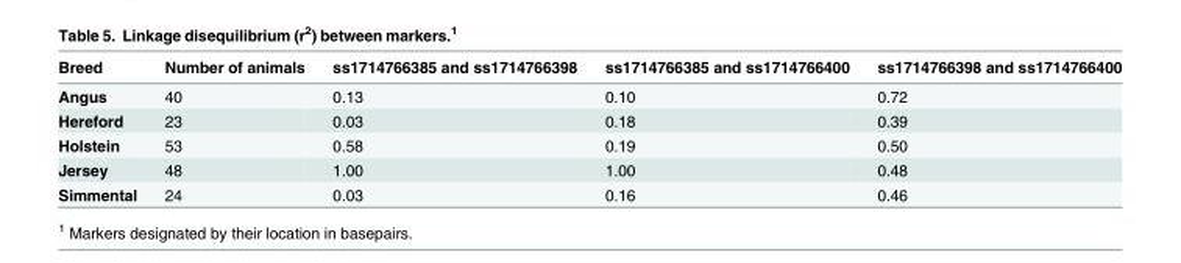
<table><thead><tr><td>Breed</td><td>Number of animals</td><td>ss1714766385 and ss1714766398</td><td>ss1714766385 and ss1714766400</td><td>ss1714766398 and ss1714766400</td></tr></thead><tbody><tr><td>Angus</td><td>40</td><td>0.13</td><td>0.10</td><td>0.72</td></tr><tr><td>Hereford</td><td>23</td><td>0.03</td><td>0.18</td><td>0.39</td></tr><tr><td>Holstein</td><td>53</td><td>0.58</td><td>0.19</td><td>0.50</td></tr><tr><td>Jersey</td><td>48</td><td>1.00</td><td>1.00</td><td>0.48</td></tr><tr><td>Simmental</td><td>24</td><td>0.03</td><td>0.16</td><td>0.46</td></tr></tbody></table>